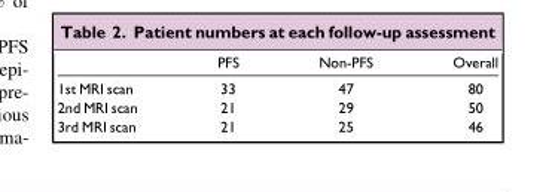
<table><thead><tr><td></td><td>PFS</td><td>Non-PFS</td><td>Overall</td></tr></thead><tbody><tr><td>1st MRI scan</td><td>33</td><td>47</td><td>80</td></tr><tr><td>2nd MRI scan</td><td>21</td><td>29</td><td>50</td></tr><tr><td>3rd MRI scan</td><td>21</td><td>25</td><td>46</td></tr></tbody></table>